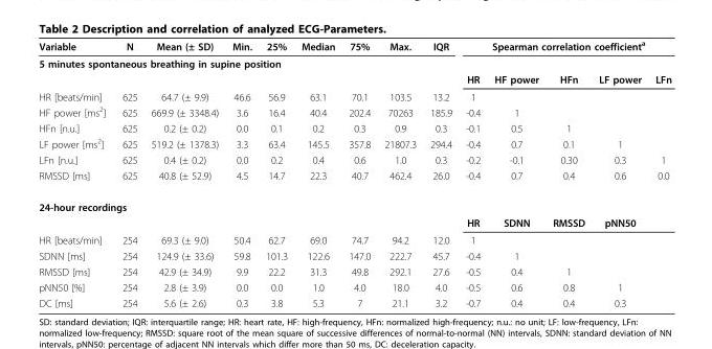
<table><tbody><tr><td>Variable</td><td>N</td><td>Mean (± SD)</td><td>Min.</td><td>25%</td><td>Median</td><td>75%</td><td>Max.</td><td>IQR</td><td colspan="5">Spearman correlation coefficient<sup>a</sup></td></tr><tr><td colspan="14">5 minutes spontaneous breathing in supine position</td></tr><tr><td></td><td></td><td></td><td></td><td></td><td></td><td></td><td></td><td></td><td>HR</td><td>HF power</td><td>HFn</td><td>LF power</td><td>LFn</td></tr><tr><td>HR [beats/min]</td><td>625</td><td>64.7 (± 9.9)</td><td>46.6</td><td>56.9</td><td>63.1</td><td>70.1</td><td>103.5</td><td>13.2</td><td>1</td><td></td><td></td><td></td><td></td></tr><tr><td>HF power [ms<sup>2</sup>]</td><td>625</td><td>669.9 (± 3348.4)</td><td>3.6</td><td>16.4</td><td>40.4</td><td>202.4</td><td>70263</td><td>185.9</td><td>-0.4</td><td>1</td><td></td><td></td><td></td></tr><tr><td>HFn [n.u.]</td><td>625</td><td>0.2 (± 0.2)</td><td>0.0</td><td>0.1</td><td>0.2</td><td>0.3</td><td>0.9</td><td>0.3</td><td>-0.1</td><td>0.5</td><td>1</td><td></td><td></td></tr><tr><td>LF power [ms<sup>2</sup>]</td><td>625</td><td>519.2 (± 1378.3)</td><td>3.3</td><td>63.4</td><td>145.5</td><td>357.8</td><td>21807.3</td><td>294.4</td><td>-0.4</td><td>0.7</td><td>0.1</td><td>1</td><td></td></tr><tr><td>LFn [n.u.]</td><td>625</td><td>0.4 (± 0.2)</td><td>0.0</td><td>0.2</td><td>0.4</td><td>0.6</td><td>1.0</td><td>0.3</td><td>-0.2</td><td>-0.1</td><td>0.30</td><td>0.3</td><td>1</td></tr><tr><td>RMSSD [ms]</td><td>625</td><td>40.8 (± 52.9)</td><td>4.5</td><td>14.7</td><td>22.3</td><td>40.7</td><td>462.4</td><td>26.0</td><td>-0.4</td><td>0.7</td><td>0.4</td><td>0.6</td><td>0.0</td></tr><tr><td colspan="14">24-hour recordings</td></tr><tr><td></td><td></td><td></td><td></td><td></td><td></td><td></td><td></td><td></td><td>HR</td><td>SDNN</td><td>RMSSD</td><td>pNN50</td><td></td></tr><tr><td>HR [beats/min]</td><td>254</td><td>69.3 (± 9.0)</td><td>50.4</td><td>62.7</td><td>69.0</td><td>74.7</td><td>94.2</td><td>12.0</td><td>1</td><td></td><td></td><td></td><td></td></tr><tr><td>SDNN [ms]</td><td>254</td><td>124.9 (± 33.6)</td><td>59.8</td><td>101.3</td><td>122.6</td><td>147.0</td><td>222.7</td><td>45.7</td><td>-0.4</td><td>1</td><td></td><td></td><td></td></tr><tr><td>RMSSD [ms]</td><td>254</td><td>42.9 (± 34.9)</td><td>9.9</td><td>22.2</td><td>31.3</td><td>49.8</td><td>292.1</td><td>27.6</td><td>-0.5</td><td>0.4</td><td>1</td><td></td><td></td></tr><tr><td>pNN50 [%]</td><td>254</td><td>2.8 (± 3.9)</td><td>0.0</td><td>0.0</td><td>1.0</td><td>4.0</td><td>18.0</td><td>4.0</td><td>-0.5</td><td>0.6</td><td>0.8</td><td>1</td><td></td></tr><tr><td>DC [ms]</td><td>254</td><td>5.6 (± 2.6)</td><td>0.3</td><td>3.8</td><td>5.3</td><td>7</td><td>21.1</td><td>3.2</td><td>-0.7</td><td>0.4</td><td>0.4</td><td>0.3</td><td></td></tr></tbody></table>